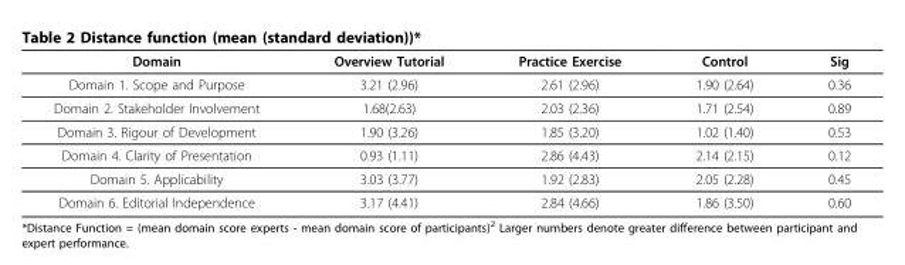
<table><thead><tr><td>Domain</td><td>Overview Tutorial</td><td>Practice Exercise</td><td>Control</td><td>Sig</td></tr></thead><tbody><tr><td>Domain 1. Scope and Purpose</td><td>3.21 (2.96)</td><td>2.61 (2.96)</td><td>1.90 (2.64)</td><td>0.36</td></tr><tr><td>Domain 2. Stakeholder Involvement</td><td>1.68(2.63)</td><td>2.03 (2.36)</td><td>1.71 (2.54)</td><td>0.89</td></tr><tr><td>Domain 3. Rigour of Development</td><td>1.90 (3.26)</td><td>1.85 (3.20)</td><td>1.02 (1.40)</td><td>0.53</td></tr><tr><td>Domain 4. Clarity of Presentation</td><td>0.93 (1.11)</td><td>2.86 (4.43)</td><td>2.14 (2.15)</td><td>0.12</td></tr><tr><td>Domain 5. Applicability</td><td>3.03 (3.77)</td><td>1.92 (2.83)</td><td>2.05 (2.28)</td><td>0.45</td></tr><tr><td>Domain 6. Editorial Independence</td><td>3.17 (4.41)</td><td>2.84 (4.66)</td><td>1.86 (3.50)</td><td>0.60</td></tr></tbody></table>